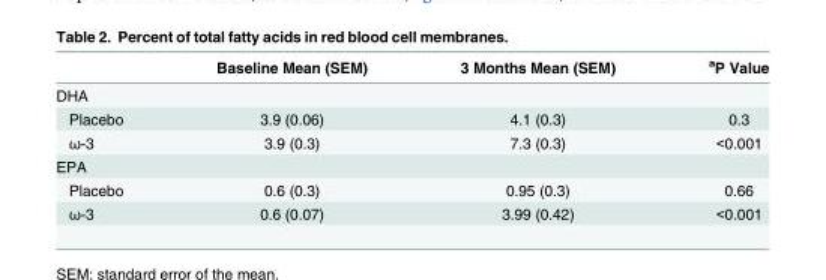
<table><thead><tr><td></td><td>Baseline Mean (SEM)</td><td>3 Months Mean (SEM)</td><td><sup>a</sup>P Value</td></tr></thead><tbody><tr><td colspan="4">DHA</td></tr><tr><td>Placebo</td><td>3.9 (0.06)</td><td>4.1 (0.3)</td><td>0.3</td></tr><tr><td>ω-3</td><td>3.9 (0.3)</td><td>7.3 (0.3)</td><td>&lt;0.001</td></tr><tr><td colspan="4">EPA</td></tr><tr><td>Placebo</td><td>0.6 (0.3)</td><td>0.95 (0.3)</td><td>0.66</td></tr><tr><td>ω-3</td><td>0.6 (0.07)</td><td>3.99 (0.42)</td><td>&lt;0.001</td></tr></tbody></table>